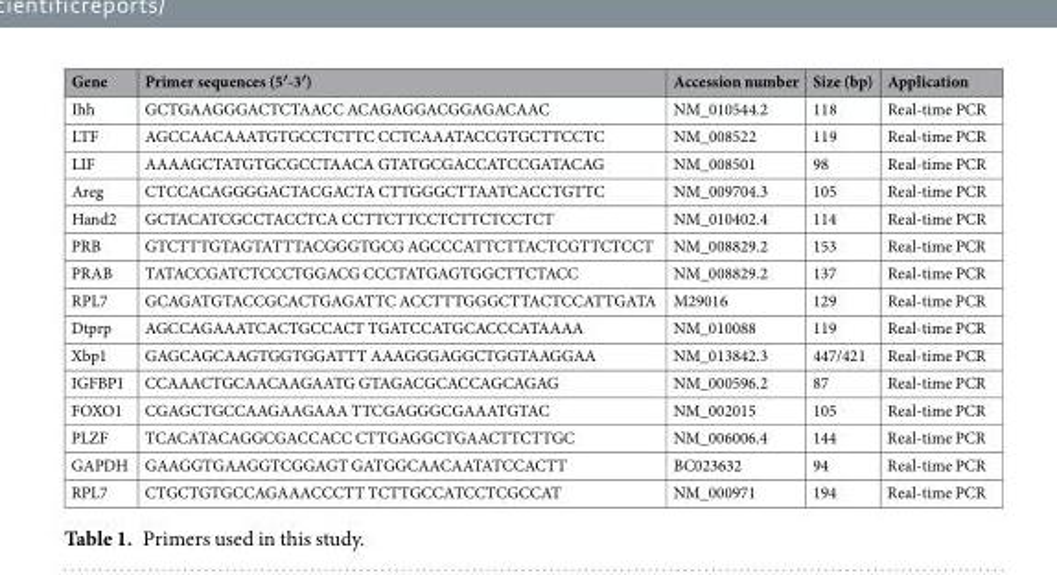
<table><thead><tr><td>Gene</td><td>Primer sequences (5′-3′)</td><td>Accession number</td><td>Size (bp)</td><td>Application</td></tr></thead><tbody><tr><td>Ihh</td><td>GCTGAAGGGACTCTAACC ACAGAGGACGGAGACAAC</td><td>NM_010544.2</td><td>118</td><td>Real-time PCR</td></tr><tr><td>LTF</td><td>AGCCAACAAATGTGCCTCTTC CCTCAAATACCGTGCTTCCTC</td><td>NM_008522</td><td>119</td><td>Real-time PCR</td></tr><tr><td>LIF</td><td>AAAAGCTATGTGCGCCTAACA GTATGCGACCATCCGATACAG</td><td>NM_008501</td><td>98</td><td>Real-time PCR</td></tr><tr><td>Areg</td><td>CTCCACAGGGGACTACGACTA CTTGGGCTTAATCACCTGTTC</td><td>NM_009704.3</td><td>105</td><td>Real-time PCR</td></tr><tr><td>Hand2</td><td>GCTACATCGCCTACCTCA CCTTCTTCCTCTTCTCCTCT</td><td>NM_010402.4</td><td>114</td><td>Real-time PCR</td></tr><tr><td>PRB</td><td>GTCTTTGTAGTATTTACGGGTGCG AGCCCATTCTTACTCGTTCTCCT</td><td>NM_008829.2</td><td>153</td><td>Real-time PCR</td></tr><tr><td>PRAB</td><td>TATACCGATCTCCCTGGACG CCCTATGAGTGGCTTCTACC</td><td>NM_008829.2</td><td>137</td><td>Real-time PCR</td></tr><tr><td>RPL7</td><td>GCAGATGTACCGCACTGAGATTC ACCTTTGGGCTTACTCCATTGATA</td><td>M29016</td><td>129</td><td>Real-time PCR</td></tr><tr><td>Dtprp</td><td>AGCCAGAAATCACTGCCACT TGATCCATGCACCCATAAAA</td><td>NM_010088</td><td>119</td><td>Real-time PCR</td></tr><tr><td>Xbp1</td><td>GAGCAGCAAGTGGTGGATTT AAAGGGAGGCTGGTAAGGAA</td><td>NM_013842.3</td><td>447/421</td><td>Real-time PCR</td></tr><tr><td>IGFBP1</td><td>CCAAACTGCAACAAGAATG GTAGACGCACCAGCAGAG</td><td>NM_000596.2</td><td>87</td><td>Real-time PCR</td></tr><tr><td>FOXO1</td><td>CGAGCTGCCAAGAAGAAA TTCGAGGGCGAAATGTAC</td><td>NM_002015</td><td>105</td><td>Real-time PCR</td></tr><tr><td>PLZF</td><td>TCACATACAGGCGACCACC CTTGAGGCTGAACTTCTTGC</td><td>NM_006006.4</td><td>144</td><td>Real-time PCR</td></tr><tr><td>GAPDH</td><td>GAAGGTGAAGGTCGGAGT GATGGCAACAATATCCACTT</td><td>BC023632</td><td>94</td><td>Real-time PCR</td></tr><tr><td>RPL7</td><td>CTGCTGTGCCAGAAACCCTT TCTTGCCATCCTCGCCAT</td><td>NM_000971</td><td>194</td><td>Real-time PCR</td></tr></tbody></table>